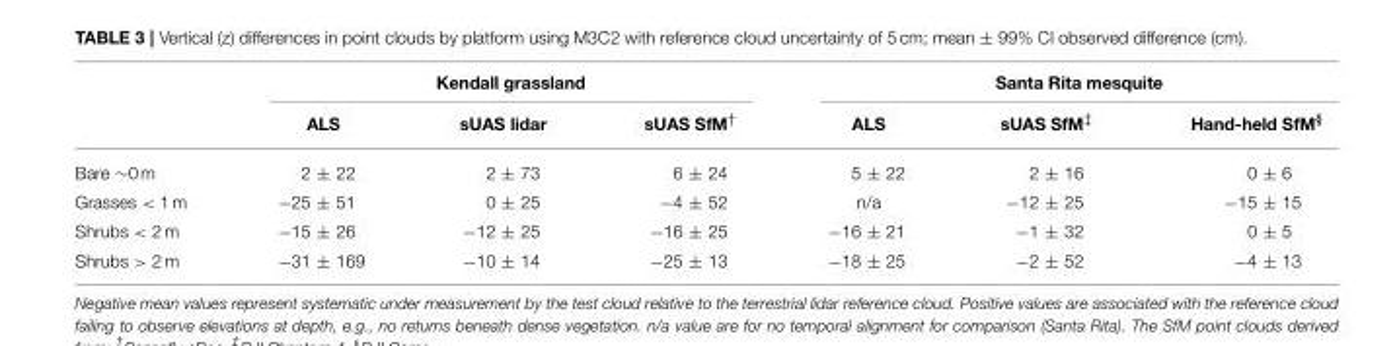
<table><thead><tr><td rowspan="2"></td><td colspan="3">Kendall grassland</td><td colspan="3">Santa Rita mesquite</td></tr><tr><td>ALS</td><td>sUAS lidar</td><td>sUAS SfM<sup>†</sup></td><td>ALS</td><td>sUAS SfM<sup>‡</sup></td><td>Hand-held SfM<sup>§</sup></td></tr></thead><tbody><tr><td>Bare ∼0 m</td><td>2 ± 22</td><td>2 ± 73</td><td>6 ± 24</td><td>5 ± 22</td><td>2 ± 16</td><td>0 ± 6</td></tr><tr><td>Grasses &lt; 1 m</td><td>−25 ± 51</td><td>0 ± 25</td><td>−4 ± 52</td><td>n/a</td><td>−12 ± 25</td><td>−15 ± 15</td></tr><tr><td>Shrubs &lt; 2 m</td><td>−15 ± 26</td><td>−12 ± 25</td><td>−16 ± 25</td><td>−16 ± 21</td><td>−1 ± 32</td><td>0 ± 5</td></tr><tr><td>Shrubs &gt; 2 m</td><td>−31 ± 169</td><td>−10 ± 14</td><td>−25 ± 13</td><td>−18 ± 25</td><td>−2 ± 52</td><td>−4 ± 13</td></tr></tbody></table>